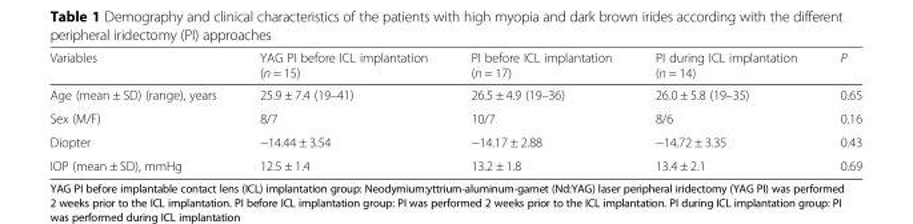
<table><thead><tr><td>Variables</td><td>YAG PI before ICL implantation (n = 15)</td><td>PI before ICL implantation (n = 17)</td><td>PI during ICL implantation (n = 14)</td><td>P</td></tr></thead><tbody><tr><td>Age (mean ± SD) (range), years</td><td>25.9 ± 7.4 (19–41)</td><td>26.5 ± 4.9 (19–36)</td><td>26.0 ± 5.8 (19–35)</td><td>0.65</td></tr><tr><td>Sex (M/F)</td><td>8/7</td><td>10/7</td><td>8/6</td><td>0.16</td></tr><tr><td>Diopter</td><td>−14.44 ± 3.54</td><td>−14.17 ± 2.88</td><td>−14.72 ± 3.35</td><td>0.43</td></tr><tr><td>IOP (mean ± SD), mmHg</td><td>12.5 ± 1.4</td><td>13.2 ± 1.8</td><td>13.4 ± 2.1</td><td>0.69</td></tr></tbody></table>